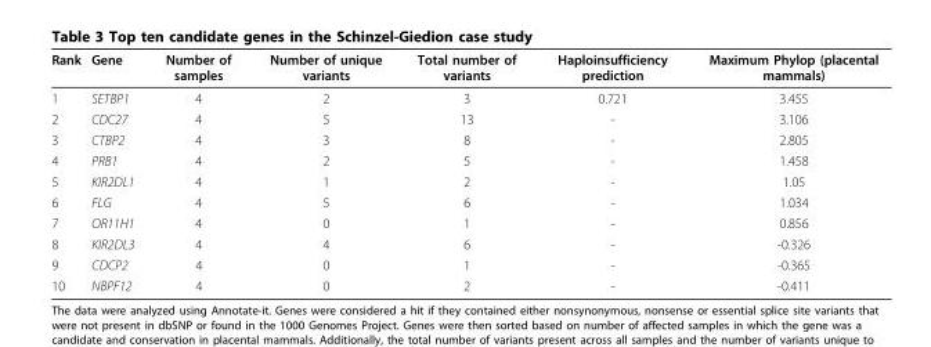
<table><thead><tr><td>Rank</td><td>Gene</td><td>Number of samples</td><td>Number of unique variants</td><td>Total number of variants</td><td>Haploinsufficiency prediction</td><td>Maximum Phylop (placental mammals)</td></tr></thead><tbody><tr><td>1</td><td>SETBP1</td><td>4</td><td>2</td><td>3</td><td>0.721</td><td>3.455</td></tr><tr><td>2</td><td>CDC27</td><td>4</td><td>5</td><td>13</td><td>-</td><td>3.106</td></tr><tr><td>3</td><td>CTBP2</td><td>4</td><td>3</td><td>8</td><td>-</td><td>2.805</td></tr><tr><td>4</td><td>PRB1</td><td>4</td><td>2</td><td>5</td><td>-</td><td>1.458</td></tr><tr><td>5</td><td>KIR2DL1</td><td>4</td><td>1</td><td>2</td><td>-</td><td>1.05</td></tr><tr><td>6</td><td>FLG</td><td>4</td><td>5</td><td>6</td><td>-</td><td>1.034</td></tr><tr><td>7</td><td>OR11H1</td><td>4</td><td>0</td><td>1</td><td>-</td><td>0.856</td></tr><tr><td>8</td><td>KIR2DL3</td><td>4</td><td>4</td><td>6</td><td>-</td><td>-0.326</td></tr><tr><td>9</td><td>CDCP2</td><td>4</td><td>0</td><td>1</td><td>-</td><td>-0.365</td></tr><tr><td>10</td><td>NBPF12</td><td>4</td><td>0</td><td>2</td><td>-</td><td>-0.411</td></tr></tbody></table>